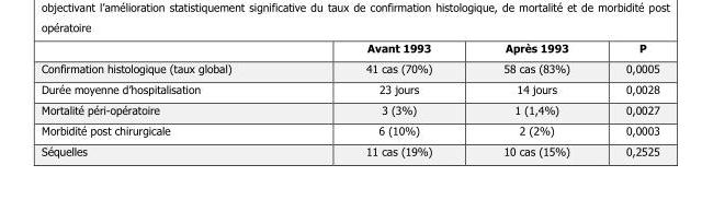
<table><thead><tr><td></td><td>Avant 1993</td><td>Après 1993</td><td>P</td></tr></thead><tbody><tr><td>Confirmation histologique (taux global)</td><td>41 cas (70%)</td><td>58 cas (83%)</td><td>0,0005</td></tr><tr><td>Durée moyenne d’hospitalisation</td><td>23 jours</td><td>14 jours</td><td>0,0028</td></tr><tr><td>Mortalité péri-opératoire</td><td>3 (3%)</td><td>1 (1,4%)</td><td>0,0027</td></tr><tr><td>Morbidité post chirurgicale</td><td>6 (10%)</td><td>2 (2%)</td><td>0,0003</td></tr><tr><td>Séquelles</td><td>11 cas (19%)</td><td>10 cas (15%)</td><td>0,2525</td></tr></tbody></table>